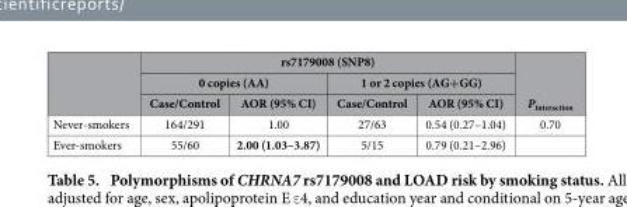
<table><thead><tr><td rowspan="3"></td><td colspan="4">rs7179008 (SNP8)</td><td rowspan="3">P<sub>interaction</sub></td></tr><tr><td colspan="2">0 copies (AA)</td><td colspan="2">1 or 2 copies (AG+GG)</td></tr><tr><td>Case/Control</td><td>AOR (95% CI)</td><td>Case/Control</td><td>AOR (95% CI)</td></tr></thead><tbody><tr><td>Never-smokers</td><td>164/291</td><td>1.00</td><td>27/63</td><td>0.54 (0.27–1.04)</td><td>0.70</td></tr><tr><td>Ever-smokers</td><td>55/60</td><td>2.00 (1.03–3.87)</td><td>5/15</td><td>0.79 (0.21–2.96)</td><td></td></tr></tbody></table>